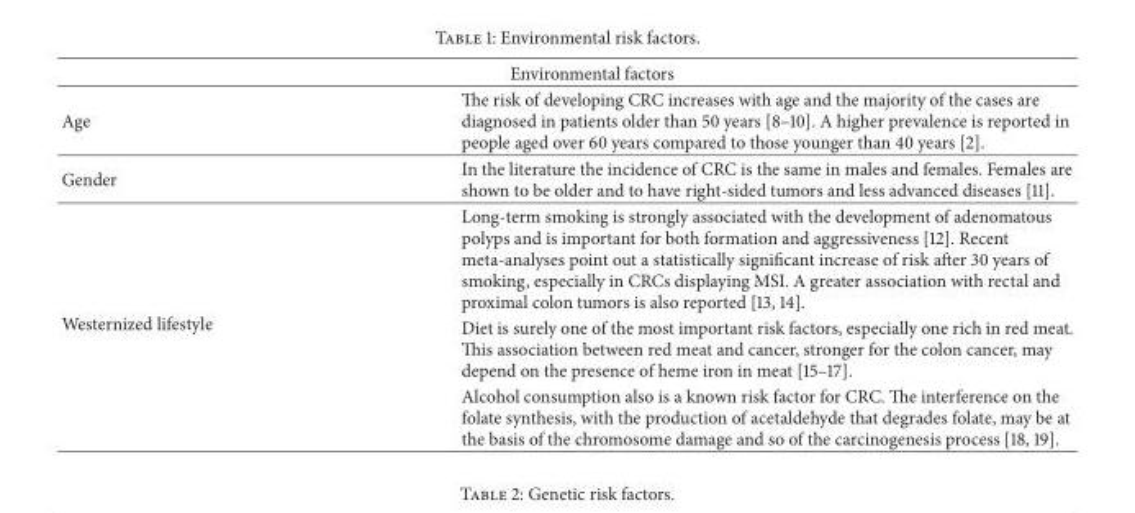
<table><thead><tr><td colspan="2">Environmental factors</td></tr><tr><td>Age</td><td>The risk of developing CRC increases with age and the majority of the cases are diagnosed in patients older than 50 years [8–10]. A higher prevalence is reported in people aged over 60 years compared to those younger than 40 years [2].</td></tr></thead><tbody><tr><td>Gender</td><td>In the literature the incidence of CRC is the same in males and females. Females are shown to be older and to have right-sided tumors and less advanced diseases [11].</td></tr><tr><td rowspan="3">Westernized lifestyle</td><td>Long-term smoking is strongly associated with the development of adenomatous polyps and is important for both formation and aggressiveness [12]. Recent meta-analyses point out a statistically significant increase of risk after 30 years of smoking, especially in CRCs displaying MSI. A greater association with rectal and proximal colon tumors is also reported [13, 14].</td></tr><tr><td>Diet is surely one of the most important risk factors, especially one rich in red meat. This association between red meat and cancer, stronger for the colon cancer, may depend on the presence of heme iron in meat [15–17].</td></tr><tr><td>Alcohol consumption also is a known risk factor for CRC. The interference on the folate synthesis, with the production of acetaldehyde that degrades folate, may be at the basis of the chromosome damage and so of the carcinogenesis process [18, 19].</td></tr></tbody></table>